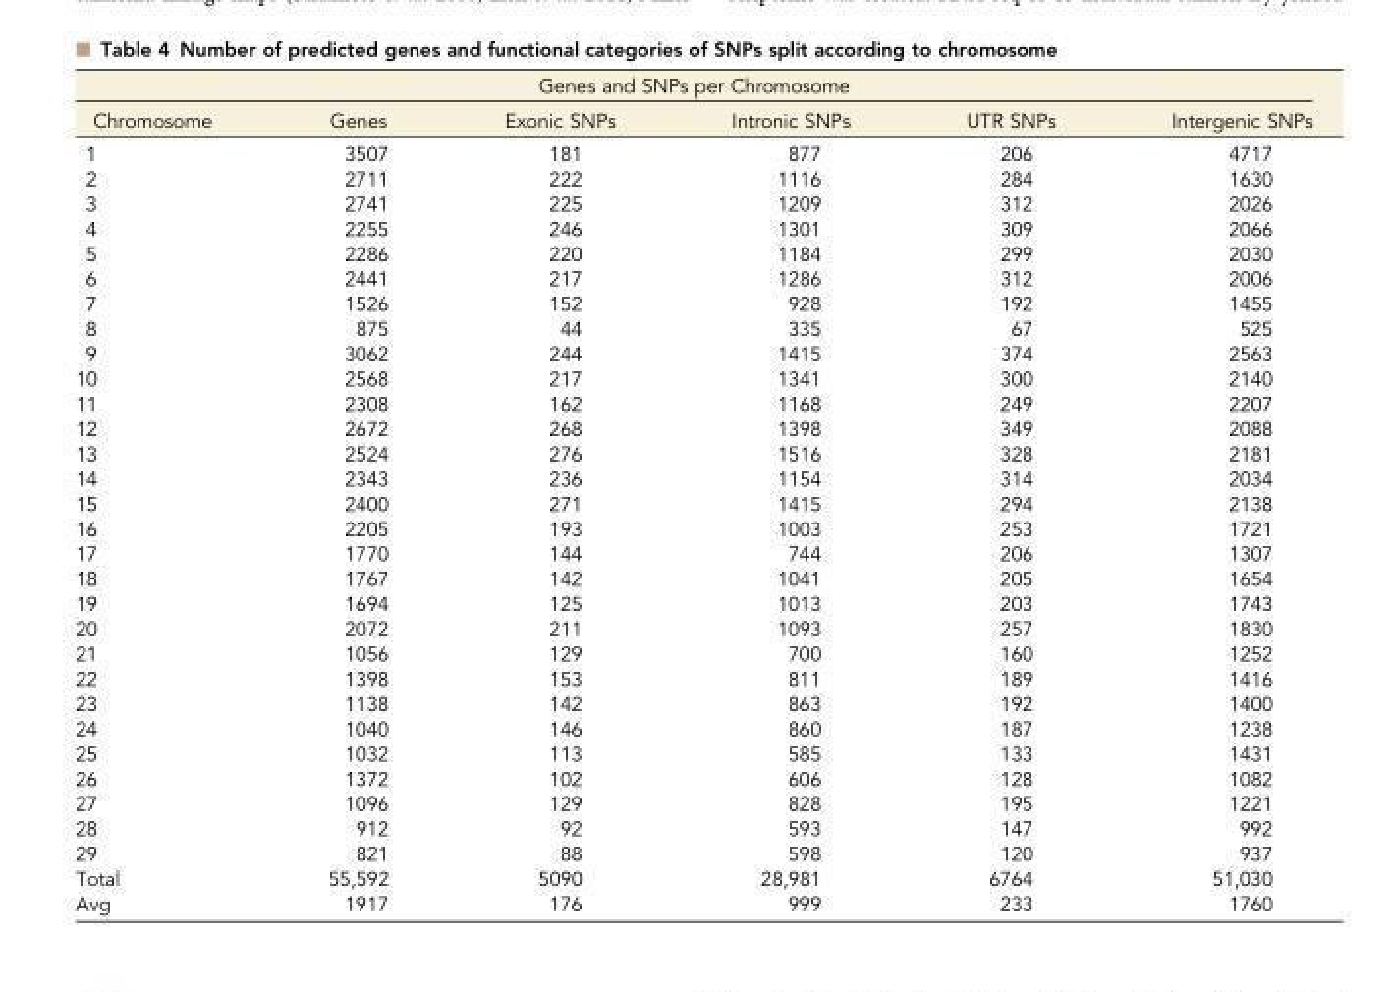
<table><thead><tr><td colspan="6">Genes and SNPs per Chromosome</td></tr><tr><td>Chromosome</td><td>Genes</td><td>Exonic SNPs</td><td>Intronic SNPs</td><td>UTR SNPs</td><td>Intergenic SNPs</td></tr></thead><tbody><tr><td>1</td><td>3507</td><td>181</td><td>877</td><td>206</td><td>4717</td></tr><tr><td>2</td><td>2711</td><td>222</td><td>1116</td><td>284</td><td>1630</td></tr><tr><td>3</td><td>2741</td><td>225</td><td>1209</td><td>312</td><td>2026</td></tr><tr><td>4</td><td>2255</td><td>246</td><td>1301</td><td>309</td><td>2066</td></tr><tr><td>5</td><td>2286</td><td>220</td><td>1184</td><td>299</td><td>2030</td></tr><tr><td>6</td><td>2441</td><td>217</td><td>1286</td><td>312</td><td>2006</td></tr><tr><td>7</td><td>1526</td><td>152</td><td>928</td><td>192</td><td>1455</td></tr><tr><td>8</td><td>875</td><td>44</td><td>335</td><td>67</td><td>525</td></tr><tr><td>9</td><td>3062</td><td>244</td><td>1415</td><td>374</td><td>2563</td></tr><tr><td>10</td><td>2568</td><td>217</td><td>1341</td><td>300</td><td>2140</td></tr><tr><td>11</td><td>2308</td><td>162</td><td>1168</td><td>249</td><td>2207</td></tr><tr><td>12</td><td>2672</td><td>268</td><td>1398</td><td>349</td><td>2088</td></tr><tr><td>13</td><td>2524</td><td>276</td><td>1516</td><td>328</td><td>2181</td></tr><tr><td>14</td><td>2343</td><td>236</td><td>1154</td><td>314</td><td>2034</td></tr><tr><td>15</td><td>2400</td><td>271</td><td>1415</td><td>294</td><td>2138</td></tr><tr><td>16</td><td>2205</td><td>193</td><td>1003</td><td>253</td><td>1721</td></tr><tr><td>17</td><td>1770</td><td>144</td><td>744</td><td>206</td><td>1307</td></tr><tr><td>18</td><td>1767</td><td>142</td><td>1041</td><td>205</td><td>1654</td></tr><tr><td>19</td><td>1694</td><td>125</td><td>1013</td><td>203</td><td>1743</td></tr><tr><td>20</td><td>2072</td><td>211</td><td>1093</td><td>257</td><td>1830</td></tr><tr><td>21</td><td>1056</td><td>129</td><td>700</td><td>160</td><td>1252</td></tr><tr><td>22</td><td>1398</td><td>153</td><td>811</td><td>189</td><td>1416</td></tr><tr><td>23</td><td>1138</td><td>142</td><td>863</td><td>192</td><td>1400</td></tr><tr><td>24</td><td>1040</td><td>146</td><td>860</td><td>187</td><td>1238</td></tr><tr><td>25</td><td>1032</td><td>113</td><td>585</td><td>133</td><td>1431</td></tr><tr><td>26</td><td>1372</td><td>102</td><td>606</td><td>128</td><td>1082</td></tr><tr><td>27</td><td>1096</td><td>129</td><td>828</td><td>195</td><td>1221</td></tr><tr><td>28</td><td>912</td><td>92</td><td>593</td><td>147</td><td>992</td></tr><tr><td>29</td><td>821</td><td>88</td><td>598</td><td>120</td><td>937</td></tr><tr><td>Total</td><td>55,592</td><td>5090</td><td>28,981</td><td>6764</td><td>51,030</td></tr><tr><td>Avg</td><td>1917</td><td>176</td><td>999</td><td>233</td><td>1760</td></tr></tbody></table>